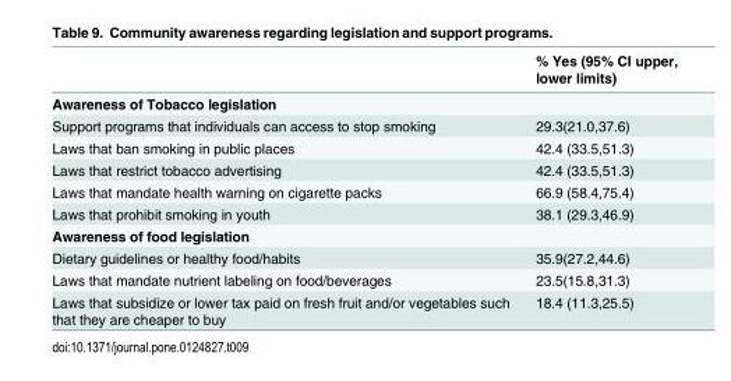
<table><thead><tr><td></td><td>% Yes (95% CI upper, lower limits)</td></tr></thead><tbody><tr><td colspan="2">Awareness of Tobacco legislation</td></tr><tr><td>Support programs that individuals can access to stop smoking</td><td>29.3(21.0,37.6)</td></tr><tr><td>Laws that ban smoking in public places</td><td>42.4 (33.5,51.3)</td></tr><tr><td>Laws that restrict tobacco advertising</td><td>42.4 (33.5,51.3)</td></tr><tr><td>Laws that mandate health warning on cigarette packs</td><td>66.9 (58.4,75.4)</td></tr><tr><td>Laws that prohibit smoking in youth</td><td>38.1 (29.3,46.9)</td></tr><tr><td colspan="2">Awareness of food legislation</td></tr><tr><td>Dietary guidelines or healthy food/habits</td><td>35.9(27.2,44.6)</td></tr><tr><td>Laws that mandate nutrient labeling on food/beverages</td><td>23.5(15.8,31.3)</td></tr><tr><td>Laws that subsidize or lower tax paid on fresh fruit and/or vegetables such that they are cheaper to buy</td><td>18.4 (11.3,25.5)</td></tr></tbody></table>